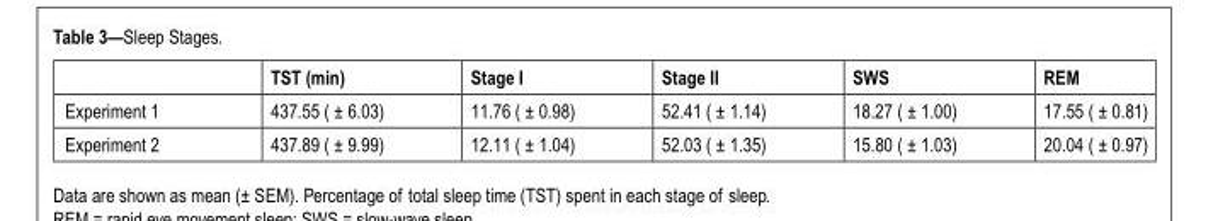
<table><thead><tr><td></td><td>TST (min)</td><td>Stage I</td><td>Stage II</td><td>SWS</td><td>REM</td></tr></thead><tbody><tr><td>Experiment 1</td><td>437.55 ( ± 6.03)</td><td>11.76 ( ± 0.98)</td><td>52.41 ( ± 1.14)</td><td>18.27 ( ± 1.00)</td><td>17.55 ( ± 0.81)</td></tr><tr><td>Experiment 2</td><td>437.89 ( ± 9.99)</td><td>12.11 ( ± 1.04)</td><td>52.03 ( ± 1.35)</td><td>15.80 ( ± 1.03)</td><td>20.04 ( ± 0.97)</td></tr></tbody></table>